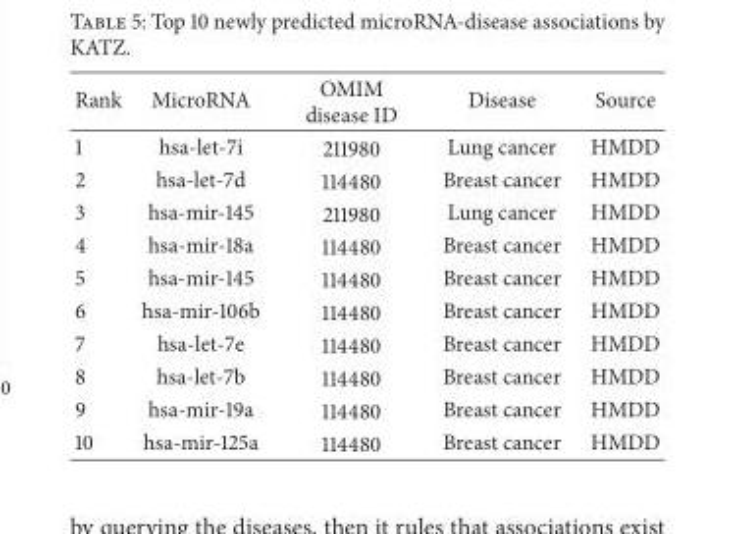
<table><thead><tr><td>Rank</td><td>MicroRNA</td><td>OMIM disease ID</td><td>Disease</td><td>Source</td></tr></thead><tbody><tr><td>1</td><td>hsa-let-7i</td><td>211980</td><td>Lung cancer</td><td>HMDD</td></tr><tr><td>2</td><td>hsa-let-7d</td><td>114480</td><td>Breast cancer</td><td>HMDD</td></tr><tr><td>3</td><td>hsa-mir-145</td><td>211980</td><td>Lung cancer</td><td>HMDD</td></tr><tr><td>4</td><td>hsa-mir-18a</td><td>114480</td><td>Breast cancer</td><td>HMDD</td></tr><tr><td>5</td><td>hsa-mir-145</td><td>114480</td><td>Breast cancer</td><td>HMDD</td></tr><tr><td>6</td><td>hsa-mir-106b</td><td>114480</td><td>Breast cancer</td><td>HMDD</td></tr><tr><td>7</td><td>hsa-let-7e</td><td>114480</td><td>Breast cancer</td><td>HMDD</td></tr><tr><td>8</td><td>hsa-let-7b</td><td>114480</td><td>Breast cancer</td><td>HMDD</td></tr><tr><td>9</td><td>hsa-mir-19a</td><td>114480</td><td>Breast cancer</td><td>HMDD</td></tr><tr><td>10</td><td>hsa-mir-125a</td><td>114480</td><td>Breast cancer</td><td>HMDD</td></tr></tbody></table>